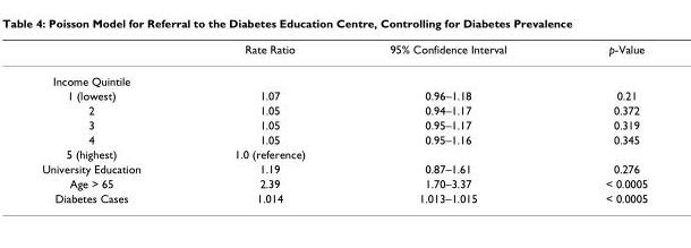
<table><thead><tr><td></td><td>Rate Ratio</td><td>95% Confidence Interval</td><td>p-Value</td></tr></thead><tbody><tr><td colspan="4">Income Quintile</td></tr><tr><td>1 (lowest)</td><td>1.07</td><td>0.96–1.18</td><td>0.21</td></tr><tr><td>2</td><td>1.05</td><td>0.94–1.17</td><td>0.372</td></tr><tr><td>3</td><td>1.05</td><td>0.95–1.17</td><td>0.319</td></tr><tr><td>4</td><td>1.05</td><td>0.95–1.16</td><td>0.345</td></tr><tr><td>5 (highest)</td><td>1.0 (reference)</td><td></td><td></td></tr><tr><td>University Education</td><td>1.19</td><td>0.87–1.61</td><td>0.276</td></tr><tr><td>Age &gt; 65</td><td>2.39</td><td>1.70–3.37</td><td>&lt; 0.0005</td></tr><tr><td>Diabetes Cases</td><td>1.014</td><td>1.013–1.015</td><td>&lt; 0.0005</td></tr></tbody></table>